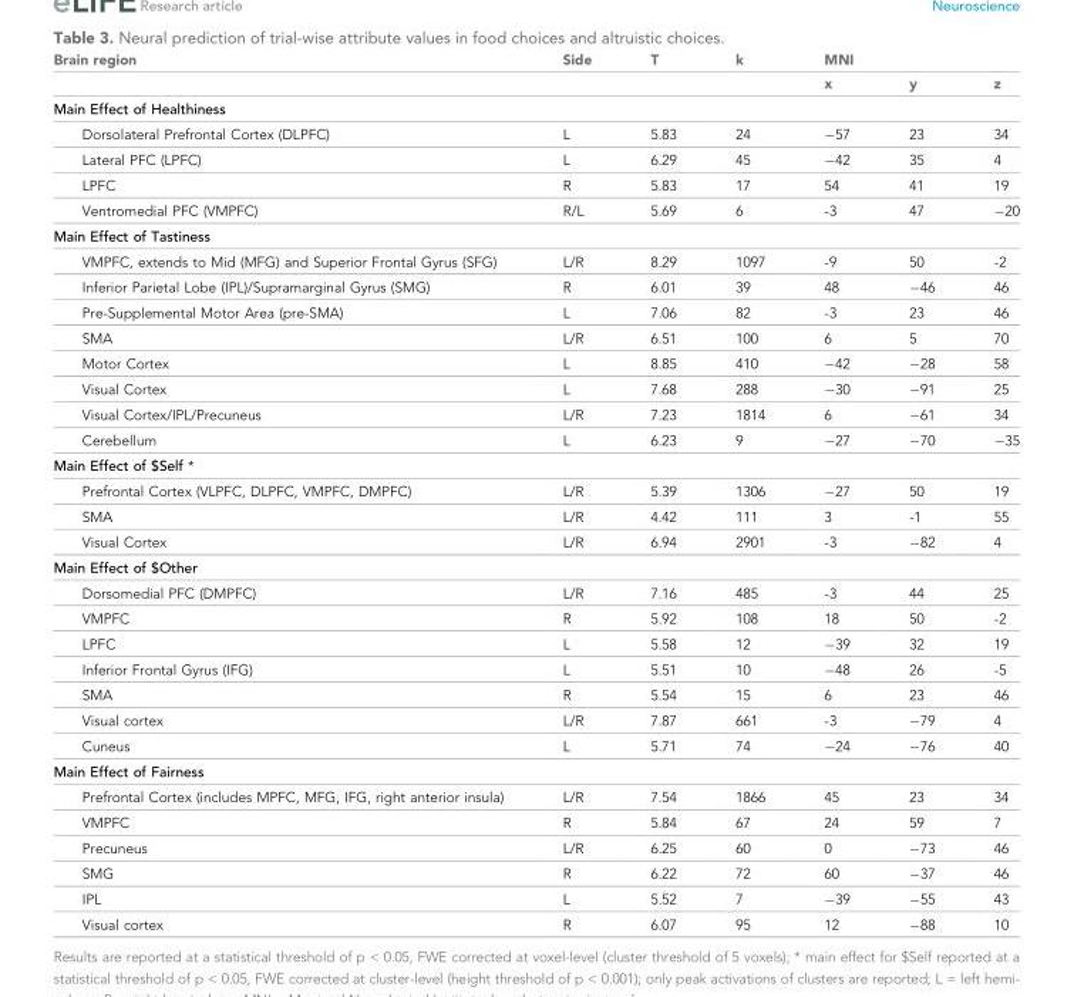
<table><thead><tr><td rowspan="2">Brain region</td><td rowspan="2">Side</td><td rowspan="2">T</td><td rowspan="2">k</td><td colspan="3">MNI</td></tr><tr><td>x</td><td>y</td><td>z</td></tr></thead><tbody><tr><td colspan="7">Main Effect of Healthiness</td></tr><tr><td>Dorsolateral Prefrontal Cortex (DLPFC)</td><td>L</td><td>5.83</td><td>24</td><td>−57</td><td>23</td><td>34</td></tr><tr><td>Lateral PFC (LPFC)</td><td>L</td><td>6.29</td><td>45</td><td>−42</td><td>35</td><td>4</td></tr><tr><td>LPFC</td><td>R</td><td>5.83</td><td>17</td><td>54</td><td>41</td><td>19</td></tr><tr><td>Ventromedial PFC (VMPFC)</td><td>R/L</td><td>5.69</td><td>6</td><td>-3</td><td>47</td><td>−20</td></tr><tr><td colspan="7">Main Effect of Tastiness</td></tr><tr><td>VMPFC, extends to Mid (MFG) and Superior Frontal Gyrus (SFG)</td><td>L/R</td><td>8.29</td><td>1097</td><td>-9</td><td>50</td><td>-2</td></tr><tr><td>Inferior Parietal Lobe (IPL)/Supramarginal Gyrus (SMG)</td><td>R</td><td>6.01</td><td>39</td><td>48</td><td>−46</td><td>46</td></tr><tr><td>Pre-Supplemental Motor Area (pre-SMA)</td><td>L</td><td>7.06</td><td>82</td><td>-3</td><td>23</td><td>46</td></tr><tr><td>SMA</td><td>L/R</td><td>6.51</td><td>100</td><td>6</td><td>5</td><td>70</td></tr><tr><td>Motor Cortex</td><td>L</td><td>8.85</td><td>410</td><td>−42</td><td>−28</td><td>58</td></tr><tr><td>Visual Cortex</td><td>L</td><td>7.68</td><td>288</td><td>−30</td><td>−91</td><td>25</td></tr><tr><td>Visual Cortex/IPL/Precuneus</td><td>L/R</td><td>7.23</td><td>1814</td><td>6</td><td>−61</td><td>34</td></tr><tr><td>Cerebellum</td><td>L</td><td>6.23</td><td>9</td><td>−27</td><td>−70</td><td>−35</td></tr><tr><td colspan="7">Main Effect of $Self *</td></tr><tr><td>Prefrontal Cortex (VLPFC, DLPFC, VMPFC, DMPFC)</td><td>L/R</td><td>5.39</td><td>1306</td><td>−27</td><td>50</td><td>19</td></tr><tr><td>SMA</td><td>L/R</td><td>4.42</td><td>111</td><td>3</td><td>-1</td><td>55</td></tr><tr><td>Visual Cortex</td><td>L/R</td><td>6.94</td><td>2901</td><td>-3</td><td>−82</td><td>4</td></tr><tr><td colspan="7">Main Effect of $Other</td></tr><tr><td>Dorsomedial PFC (DMPFC)</td><td>L/R</td><td>7.16</td><td>485</td><td>-3</td><td>44</td><td>25</td></tr><tr><td>VMPFC</td><td>R</td><td>5.92</td><td>108</td><td>18</td><td>50</td><td>-2</td></tr><tr><td>LPFC</td><td>L</td><td>5.58</td><td>12</td><td>−39</td><td>32</td><td>19</td></tr><tr><td>Inferior Frontal Gyrus (IFG)</td><td>L</td><td>5.51</td><td>10</td><td>−48</td><td>26</td><td>-5</td></tr><tr><td>SMA</td><td>R</td><td>5.54</td><td>15</td><td>6</td><td>23</td><td>46</td></tr><tr><td>Visual cortex</td><td>L/R</td><td>7.87</td><td>661</td><td>-3</td><td>−79</td><td>4</td></tr><tr><td>Cuneus</td><td>L</td><td>5.71</td><td>74</td><td>−24</td><td>−76</td><td>40</td></tr><tr><td colspan="7">Main Effect of Fairness</td></tr><tr><td>Prefrontal Cortex (includes MPFC, MFG, IFG, right anterior insula)</td><td>L/R</td><td>7.54</td><td>1866</td><td>45</td><td>23</td><td>34</td></tr><tr><td>VMPFC</td><td>R</td><td>5.84</td><td>67</td><td>24</td><td>59</td><td>7</td></tr><tr><td>Precuneus</td><td>L/R</td><td>6.25</td><td>60</td><td>0</td><td>−73</td><td>46</td></tr><tr><td>SMG</td><td>R</td><td>6.22</td><td>72</td><td>60</td><td>−37</td><td>46</td></tr><tr><td>IPL</td><td>L</td><td>5.52</td><td>7</td><td>−39</td><td>−55</td><td>43</td></tr><tr><td>Visual cortex</td><td>R</td><td>6.07</td><td>95</td><td>12</td><td>−88</td><td>10</td></tr></tbody></table>